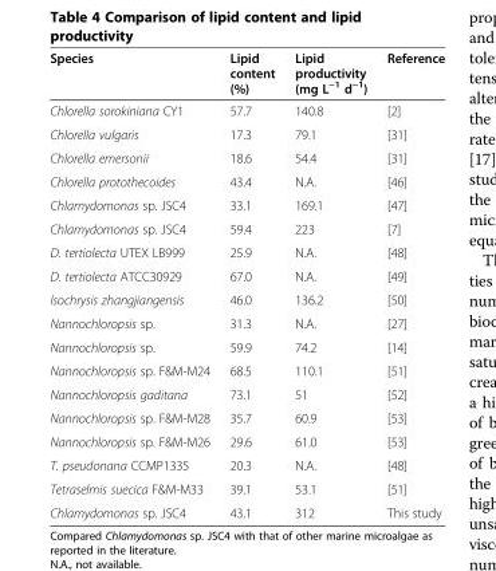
<table><thead><tr><td>Species</td><td>Lipid content (%)</td><td>Lipid productivity (mg L<sup>−1</sup> d<sup>−1</sup>)</td><td>Reference</td></tr></thead><tbody><tr><td>Chlorella sorokiniana CY1</td><td>57.7</td><td>140.8</td><td>[2]</td></tr><tr><td>Chlorella vulgaris</td><td>17.3</td><td>79.1</td><td>[31]</td></tr><tr><td>Chlorella emersonii</td><td>18.6</td><td>54.4</td><td>[31]</td></tr><tr><td>Chlorella protothecoides</td><td>43.4</td><td>N.A.</td><td>[46]</td></tr><tr><td>Chlamydomonas sp. JSC4</td><td>33.1</td><td>169.1</td><td>[47]</td></tr><tr><td>Chlamydomonas sp. JSC4</td><td>59.4</td><td>223</td><td>[7]</td></tr><tr><td>D. tertiolecta UTEX LB999</td><td>25.9</td><td>N.A.</td><td>[48]</td></tr><tr><td>D. tertiolecta ATCC30929</td><td>67.0</td><td>N.A.</td><td>[49]</td></tr><tr><td>Isochrysis zhangjiangensis</td><td>46.0</td><td>136.2</td><td>[50]</td></tr><tr><td>Nannochloropsis sp.</td><td>31.3</td><td>N.A.</td><td>[27]</td></tr><tr><td>Nannochloropsis sp.</td><td>59.9</td><td>74.2</td><td>[14]</td></tr><tr><td>Nannochloropsis sp. F&amp;M-M24</td><td>68.5</td><td>110.1</td><td>[51]</td></tr><tr><td>Nannochloropsis gaditana</td><td>73.1</td><td>51</td><td>[52]</td></tr><tr><td>Nannochloropsis sp. F&amp;M-M28</td><td>35.7</td><td>60.9</td><td>[53]</td></tr><tr><td>Nannochloropsis sp. F&amp;M-M26</td><td>29.6</td><td>61.0</td><td>[53]</td></tr><tr><td>T. pseudonana CCMP1335</td><td>20.3</td><td>N.A.</td><td>[48]</td></tr><tr><td>Tetraselmis suecica F&amp;M-M33</td><td>39.1</td><td>53.1</td><td>[51]</td></tr><tr><td>Chlamydomonas sp. JSC4</td><td>43.1</td><td>312</td><td>This study</td></tr></tbody></table>